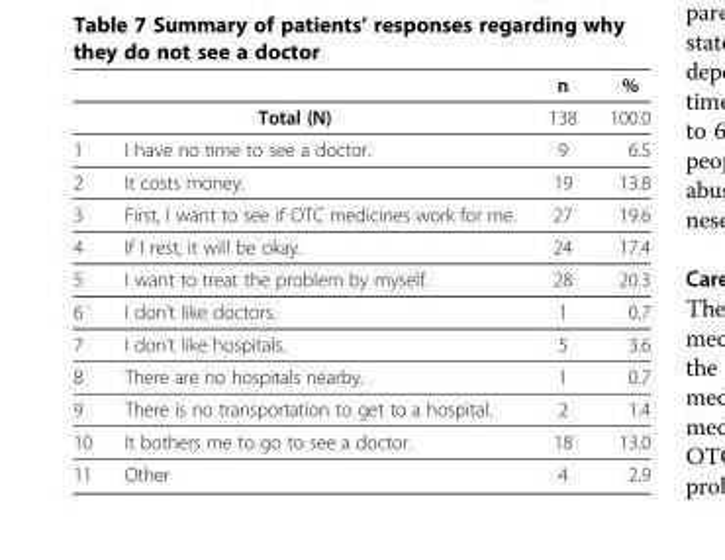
<table><thead><tr><td></td><td></td><td>n</td><td>%</td></tr></thead><tbody><tr><td></td><td>Total (N)</td><td>138</td><td>100.0</td></tr><tr><td>1</td><td>I have no time to see a doctor.</td><td>9</td><td>6.5</td></tr><tr><td>2</td><td>It costs money.</td><td>19</td><td>13.8</td></tr><tr><td>3</td><td>First, I want to see if OTC medicines work for me.</td><td>27</td><td>19.6</td></tr><tr><td>4</td><td>If I rest, it will be okay.</td><td>24</td><td>17.4</td></tr><tr><td>5</td><td>I want to treat the problem by myself.</td><td>28</td><td>20.3</td></tr><tr><td>6</td><td>I don’t like doctors.</td><td>1</td><td>0.7</td></tr><tr><td>7</td><td>I don’t like hospitals.</td><td>5</td><td>3.6</td></tr><tr><td>8</td><td>There are no hospitals nearby.</td><td>1</td><td>0.7</td></tr><tr><td>9</td><td>There is no transportation to get to a hospital.</td><td>2</td><td>1.4</td></tr><tr><td>10</td><td>It bothers me to go to see a doctor.</td><td>18</td><td>13.0</td></tr><tr><td>11</td><td>Other</td><td>4</td><td>2.9</td></tr></tbody></table>